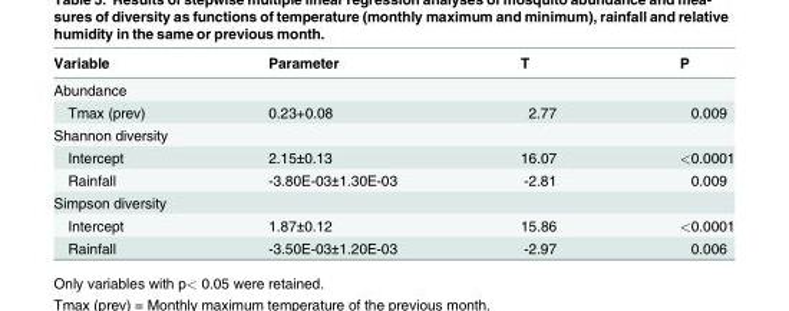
<table><thead><tr><td>Variable</td><td>Parameter</td><td>T</td><td>P</td></tr></thead><tbody><tr><td colspan="4">Abundance</td></tr><tr><td>Tmax (prev)</td><td>0.23+0.08</td><td>2.77</td><td>0.009</td></tr><tr><td colspan="4">Shannon diversity</td></tr><tr><td>Intercept</td><td>2.15±0.13</td><td>16.07</td><td>&lt;0.0001</td></tr><tr><td>Rainfall</td><td>-3.80E-03±1.30E-03</td><td>-2.81</td><td>0.009</td></tr><tr><td colspan="4">Simpson diversity</td></tr><tr><td>Intercept</td><td>1.87±0.12</td><td>15.86</td><td>&lt;0.0001</td></tr><tr><td>Rainfall</td><td>-3.50E-03±1.20E-03</td><td>-2.97</td><td>0.006</td></tr></tbody></table>